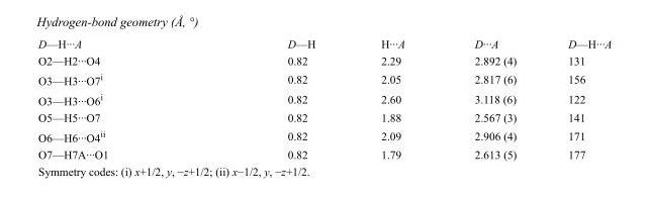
<table><tbody><tr><td>D—H···A</td><td>D—H</td><td>H···A</td><td>D···A</td><td>D—H···A</td></tr><tr><td>O2—H2···O4</td><td>0.82</td><td>2.29</td><td>2.892 (4)</td><td>131</td></tr><tr><td>O3—H3···O7<sup>i</sup></td><td>0.82</td><td>2.05</td><td>2.817 (6)</td><td>156</td></tr><tr><td>O3—H3···O6<sup>i</sup></td><td>0.82</td><td>2.60</td><td>3.118 (6)</td><td>122</td></tr><tr><td>O5—H5···O7</td><td>0.82</td><td>1.88</td><td>2.567 (3)</td><td>141</td></tr><tr><td>O6—H6···O4<sup>ii</sup></td><td>0.82</td><td>2.09</td><td>2.906 (4)</td><td>171</td></tr><tr><td>O7—H7A···O1</td><td>0.82</td><td>1.79</td><td>2.613 (5)</td><td>177</td></tr></tbody></table>